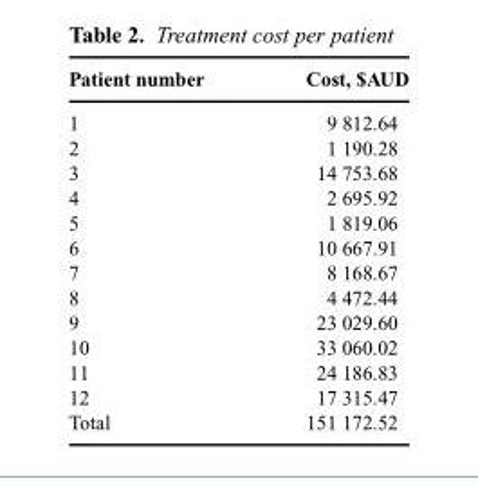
<table><thead><tr><td>Patient number</td><td>Cost, $AUD</td></tr></thead><tbody><tr><td>1</td><td>9 812.64</td></tr><tr><td>2</td><td>1 190.28</td></tr><tr><td>3</td><td>14 753.68</td></tr><tr><td>4</td><td>2 695.92</td></tr><tr><td>5</td><td>1 819.06</td></tr><tr><td>6</td><td>10 667.91</td></tr><tr><td>7</td><td>8 168.67</td></tr><tr><td>8</td><td>4 472.44</td></tr><tr><td>9</td><td>23 029.60</td></tr><tr><td>10</td><td>33 060.02</td></tr><tr><td>11</td><td>24 186.83</td></tr><tr><td>12</td><td>17 315.47</td></tr><tr><td>Total</td><td>151 172.52</td></tr></tbody></table>